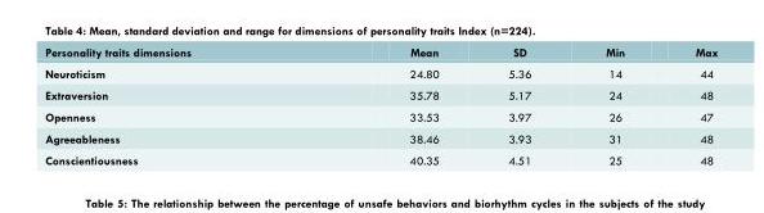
<table><thead><tr><td>Personality traits dimensions</td><td>Mean</td><td>SD</td><td>Min</td><td>Max</td></tr></thead><tbody><tr><td>Neuroticism</td><td>24.80</td><td>5.36</td><td>14</td><td>44</td></tr><tr><td>Extraversion</td><td>35.78</td><td>5.17</td><td>24</td><td>48</td></tr><tr><td>Openness</td><td>33.53</td><td>3.97</td><td>26</td><td>47</td></tr><tr><td>Agreeableness</td><td>38.46</td><td>3.93</td><td>31</td><td>48</td></tr><tr><td>Conscientiousness</td><td>40.35</td><td>4.51</td><td>25</td><td>48</td></tr></tbody></table>